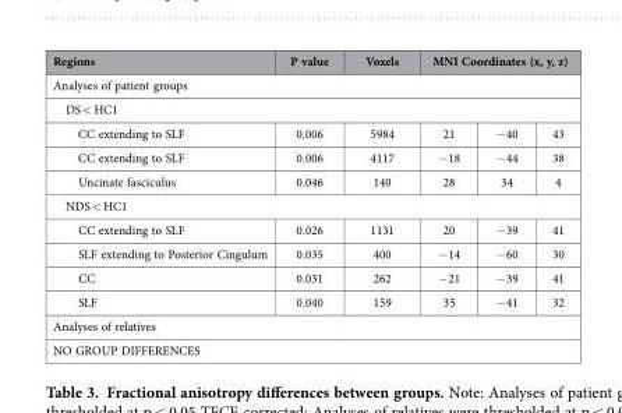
<table><thead><tr><td>Regions</td><td>P value</td><td>Voxels</td><td colspan="3">MNI Coordinates (x, y, z)</td></tr><tr><td rowspan="2" colspan="6">Analyses of patient groups DS &lt; HC1</td></tr><tr></tr><tr><td>CC extending to SLF</td><td>0.006</td><td>5984</td><td>21</td><td>− 40</td><td>43</td></tr></thead><tbody><tr><td>CC extending to SLF</td><td>0.006</td><td>4117</td><td>− 18</td><td>− 44</td><td>38</td></tr><tr><td>Uncinate fasciculus</td><td>0.046</td><td>140</td><td>28</td><td>34</td><td>4</td></tr><tr><td colspan="6">NDS &lt; HC1</td></tr><tr><td>CC extending to SLF</td><td>0.026</td><td>1131</td><td>20</td><td>− 39</td><td>41</td></tr><tr><td>SLF extending to Posterior Cingulum</td><td>0.035</td><td>400</td><td>− 14</td><td>− 60</td><td>30</td></tr><tr><td>CC</td><td>0.031</td><td>262</td><td>− 21</td><td>− 39</td><td>41</td></tr><tr><td>SLF</td><td>0.040</td><td>159</td><td>35</td><td>− 41</td><td>32</td></tr><tr><td colspan="6">Analyses of relatives</td></tr><tr><td colspan="6">NO GROUP DIFFERENCES</td></tr></tbody></table>